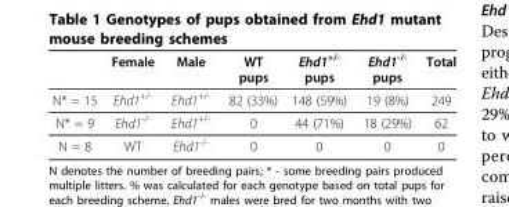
<table><thead><tr><td></td><td>Female</td><td>Male</td><td>WT pups</td><td>Ehd1<sup>+/-</sup> pups</td><td>Ehd1<sup>-/-</sup> pups</td><td>Total</td></tr></thead><tbody><tr><td>N* = 15</td><td>Ehd1<sup>+/-</sup></td><td>Ehd1<sup>+/-</sup></td><td>82 (33%)</td><td>148 (59%)</td><td>19 (8%)</td><td>249</td></tr><tr><td>N* = 9</td><td>Ehd1<sup>-/-</sup></td><td>Ehd1<sup>+/-</sup></td><td>0</td><td>44 (71%)</td><td>18 (29%)</td><td>62</td></tr><tr><td>N = 8</td><td>WT</td><td>Ehd1<sup>-/-</sup></td><td>0</td><td>0</td><td>0</td><td>0</td></tr></tbody></table>